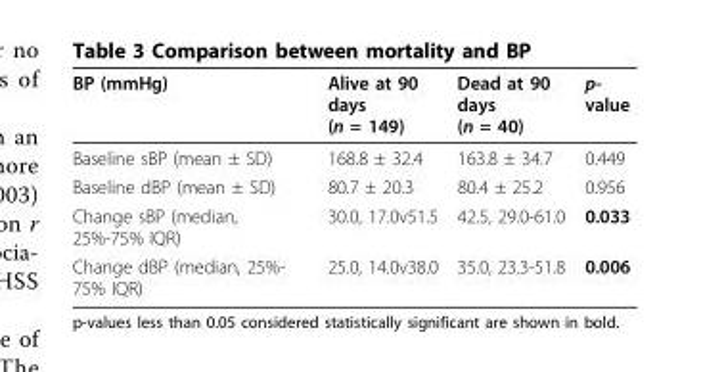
<table><thead><tr><td>BP (mmHg)</td><td>Alive at 90 days (n = 149)</td><td>Dead at 90 days (n = 40)</td><td>p- value</td></tr></thead><tbody><tr><td>Baseline sBP (mean ± SD)</td><td>168.8 ± 32.4</td><td>163.8 ± 34.7</td><td>0.449</td></tr><tr><td>Baseline dBP (mean ± SD)</td><td>80.7 ± 20.3</td><td>80.4 ± 25.2</td><td>0.956</td></tr><tr><td>Change sBP (median, 25%-75% IQR)</td><td>30.0, 17.0v51.5</td><td>42.5, 29.0-61.0</td><td>0.033</td></tr><tr><td>Change dBP (median, 25%- 75% IQR)</td><td>25.0, 14.0v38.0</td><td>35.0, 23.3-51.8</td><td>0.006</td></tr></tbody></table>